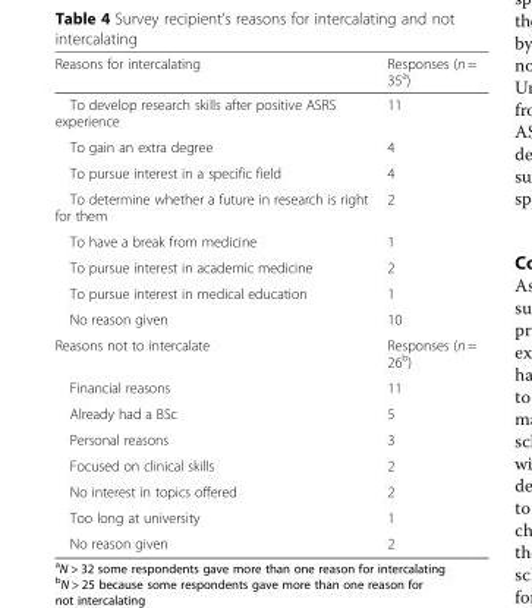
<table><thead><tr><td>Reasons for intercalating</td><td>Responses (n = 35<sup>a</sup>)</td></tr></thead><tbody><tr><td>To develop research skills after positive ASRS experience</td><td>11</td></tr><tr><td>To gain an extra degree</td><td>4</td></tr><tr><td>To pursue interest in a specific field</td><td>4</td></tr><tr><td>To determine whether a future in research is right for them</td><td>2</td></tr><tr><td>To have a break from medicine</td><td>1</td></tr><tr><td>To pursue interest in academic medicine</td><td>2</td></tr><tr><td>To pursue interest in medical education</td><td>1</td></tr><tr><td>No reason given</td><td>10</td></tr><tr><td>Reasons not to intercalate</td><td>Responses (n = 26<sup>b</sup>)</td></tr><tr><td>Financial reasons</td><td>11</td></tr><tr><td>Already had a BSc</td><td>5</td></tr><tr><td>Personal reasons</td><td>3</td></tr><tr><td>Focused on clinical skills</td><td>2</td></tr><tr><td>No interest in topics offered</td><td>2</td></tr><tr><td>Too long at university</td><td>1</td></tr><tr><td>No reason given</td><td>2</td></tr></tbody></table>